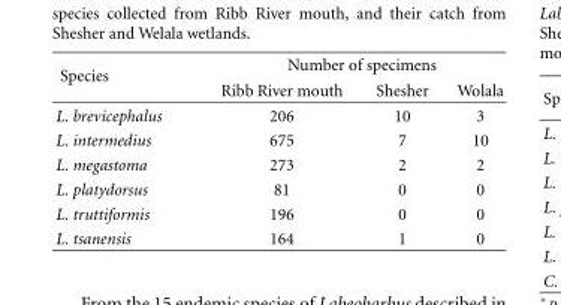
<table><thead><tr><td rowspan="2">Species</td><td colspan="3">Number of specimens</td></tr><tr><td>Ribb River mouth</td><td>Shesher</td><td>Wolala</td></tr></thead><tbody><tr><td>L. brevicephalus</td><td>206</td><td>10</td><td>3</td></tr><tr><td>L. intermedius</td><td>675</td><td>7</td><td>10</td></tr><tr><td>L. megastoma</td><td>273</td><td>2</td><td>2</td></tr><tr><td>L. platydorsus</td><td>81</td><td>0</td><td>0</td></tr><tr><td>L. truttiformis</td><td>196</td><td>0</td><td>0</td></tr><tr><td>L. tsanensis</td><td>164</td><td>1</td><td>0</td></tr></tbody></table>